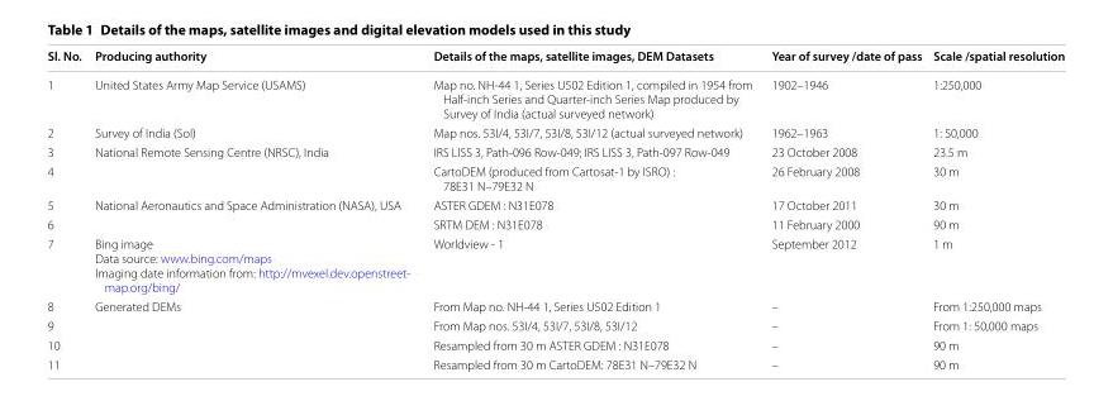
<table><thead><tr><td>Sl. No.</td><td>Producing authority</td><td>Details of the maps, satellite images, DEM Datasets</td><td>Year of survey /date of pass</td><td>Scale /spatial resolution</td></tr></thead><tbody><tr><td>1</td><td>United States Army Map Service (USAMS)</td><td>Map no. NH-44 1, Series U502 Edition 1, compiled in 1954 from Half-inch Series and Quarter-inch Series Map produced by Survey of India (actual surveyed network)</td><td>1902–1946</td><td>1:250,000</td></tr><tr><td>2</td><td>Survey of India (SoI)</td><td>Map nos. 53I/4, 53I/7, 53I/8, 53I/12 (actual surveyed network)</td><td>1962–1963</td><td>1: 50,000</td></tr><tr><td>3</td><td rowspan="2">National Remote Sensing Centre (NRSC), India</td><td>IRS LISS 3, Path-096 Row-049; IRS LISS 3, Path-097 Row-049</td><td>23 October 2008</td><td>23.5 m</td></tr><tr><td>4</td><td>CartoDEM (produced from Cartosat-1 by ISRO) : 78E31 N–79E32 N</td><td>26 February 2008</td><td>30 m</td></tr><tr><td>5</td><td rowspan="2">National Aeronautics and Space Administration (NASA), USA</td><td>ASTER GDEM : N31E078</td><td>17 October 2011</td><td>30 m</td></tr><tr><td>6</td><td>SRTM DEM : N31E078</td><td>11 February 2000</td><td>90 m</td></tr><tr><td>7</td><td>Bing image Data source: www.bing.com/maps Imaging date information from: http://mvexel.dev.openstreet- map.org/bing/</td><td>Worldview - 1</td><td>September 2012</td><td>1 m</td></tr><tr><td>8</td><td rowspan="4">Generated DEMs</td><td>From Map no. NH-44 1, Series U502 Edition 1</td><td>–</td><td>From 1:250,000 maps</td></tr><tr><td>9</td><td>From Map nos. 53I/4, 53I/7, 53I/8, 53I/12</td><td>–</td><td>From 1: 50,000 maps</td></tr><tr><td>10</td><td>Resampled from 30 m ASTER GDEM : N31E078</td><td>–</td><td>90 m</td></tr><tr><td>11</td><td>Resampled from 30 m CartoDEM: 78E31 N–79E32 N</td><td>–</td><td>90 m</td></tr></tbody></table>